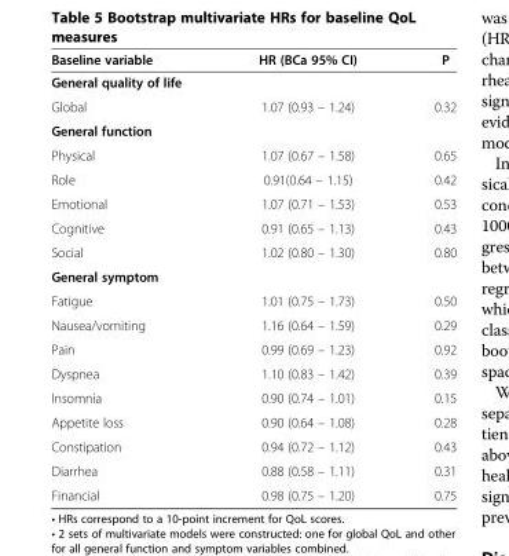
<table><thead><tr><td>Baseline variable</td><td>HR (BCa 95% CI)</td><td>P</td></tr></thead><tbody><tr><td colspan="3">General quality of life</td></tr><tr><td>Global</td><td>1.07 (0.93 – 1.24)</td><td>0.32</td></tr><tr><td colspan="3">General function</td></tr><tr><td>Physical</td><td>1.07 (0.67 – 1.58)</td><td>0.65</td></tr><tr><td>Role</td><td>0.91(0.64 – 1.15)</td><td>0.42</td></tr><tr><td>Emotional</td><td>1.07 (0.71 – 1.53)</td><td>0.53</td></tr><tr><td>Cognitive</td><td>0.91 (0.65 – 1.13)</td><td>0.43</td></tr><tr><td>Social</td><td>1.02 (0.80 – 1.30)</td><td>0.80</td></tr><tr><td colspan="3">General symptom</td></tr><tr><td>Fatigue</td><td>1.01 (0.75 – 1.73)</td><td>0.50</td></tr><tr><td>Nausea/vomiting</td><td>1.16 (0.64 – 1.59)</td><td>0.29</td></tr><tr><td>Pain</td><td>0.99 (0.69 – 1.23)</td><td>0.92</td></tr><tr><td>Dyspnea</td><td>1.10 (0.83 – 1.42)</td><td>0.39</td></tr><tr><td>Insomnia</td><td>0.90 (0.74 – 1.01)</td><td>0.15</td></tr><tr><td>Appetite loss</td><td>0.90 (0.64 – 1.08)</td><td>0.28</td></tr><tr><td>Constipation</td><td>0.94 (0.72 – 1.12)</td><td>0.43</td></tr><tr><td>Diarrhea</td><td>0.88 (0.58 – 1.11)</td><td>0.31</td></tr><tr><td>Financial</td><td>0.98 (0.75 – 1.20)</td><td>0.75</td></tr></tbody></table>